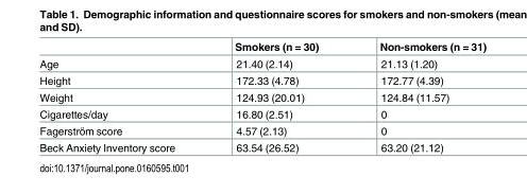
<table><thead><tr><td></td><td>Smokers (n = 30)</td><td>Non-smokers (n = 31)</td></tr></thead><tbody><tr><td>Age</td><td>21.40 (2.14)</td><td>21.13 (1.20)</td></tr><tr><td>Height</td><td>172.33 (4.78)</td><td>172.77 (4.39)</td></tr><tr><td>Weight</td><td>124.93 (20.01)</td><td>124.84 (11.57)</td></tr><tr><td>Cigarettes/day</td><td>16.80 (2.51)</td><td>0</td></tr><tr><td>Fagerström score</td><td>4.57 (2.13)</td><td>0</td></tr><tr><td>Beck Anxiety Inventory score</td><td>63.54 (26.52)</td><td>63.20 (21.12)</td></tr></tbody></table>